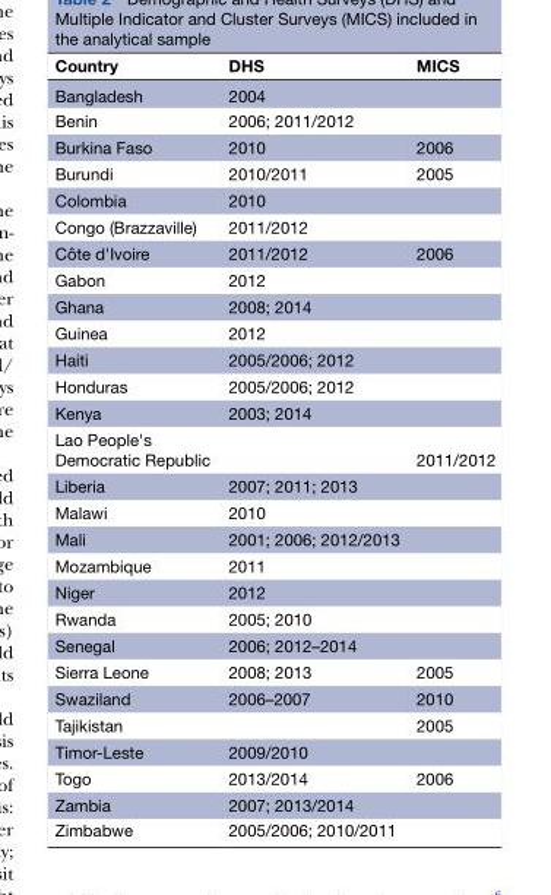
<table><thead><tr><td>Country</td><td>DHS</td><td>MICS</td></tr></thead><tbody><tr><td>Bangladesh</td><td>2004</td><td></td></tr><tr><td>Benin</td><td>2006; 2011/2012</td><td></td></tr><tr><td>Burkina Faso</td><td>2010</td><td>2006</td></tr><tr><td>Burundi</td><td>2010/2011</td><td>2005</td></tr><tr><td>Colombia</td><td>2010</td><td></td></tr><tr><td>Congo (Brazzaville)</td><td>2011/2012</td><td></td></tr><tr><td>Côte d&#x27;Ivoire</td><td>2011/2012</td><td>2006</td></tr><tr><td>Gabon</td><td>2012</td><td></td></tr><tr><td>Ghana</td><td>2008; 2014</td><td></td></tr><tr><td>Guinea</td><td>2012</td><td></td></tr><tr><td>Haiti</td><td>2005/2006; 2012</td><td></td></tr><tr><td>Honduras</td><td>2005/2006; 2012</td><td></td></tr><tr><td>Kenya</td><td>2003; 2014</td><td></td></tr><tr><td>Lao People&#x27;s Democratic Republic</td><td></td><td>2011/2012</td></tr><tr><td>Liberia</td><td>2007; 2011; 2013</td><td></td></tr><tr><td>Malawi</td><td>2010</td><td></td></tr><tr><td>Mali</td><td>2001; 2006; 2012/2013</td><td></td></tr><tr><td>Mozambique</td><td>2011</td><td></td></tr><tr><td>Niger</td><td>2012</td><td></td></tr><tr><td>Rwanda</td><td>2005; 2010</td><td></td></tr><tr><td>Senegal</td><td>2006; 2012–2014</td><td></td></tr><tr><td>Sierra Leone</td><td>2008; 2013</td><td>2005</td></tr><tr><td>Swaziland</td><td>2006–2007</td><td>2010</td></tr><tr><td>Tajikistan</td><td></td><td>2005</td></tr><tr><td>Timor-Leste</td><td>2009/2010</td><td></td></tr><tr><td>Togo</td><td>2013/2014</td><td>2006</td></tr><tr><td>Zambia</td><td>2007; 2013/2014</td><td></td></tr><tr><td>Zimbabwe</td><td>2005/2006; 2010/2011</td><td></td></tr></tbody></table>